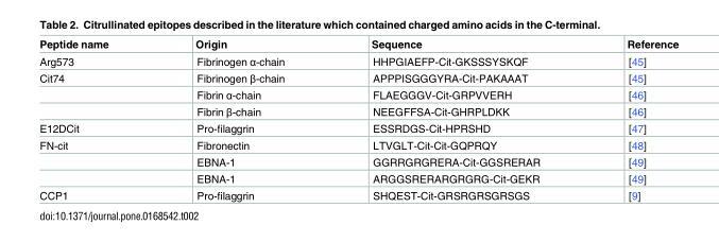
<table><thead><tr><td>Peptide name</td><td>Origin</td><td>Sequence</td><td>Reference</td></tr></thead><tbody><tr><td>Arg573</td><td>Fibrinogen α-chain</td><td>HHPGIAEFP-Cit-GKSSSYSKQF</td><td>[45]</td></tr><tr><td rowspan="3">Cit74</td><td>Fibrinogen β-chain</td><td>APPPISGGGYRA-Cit-PAKAAAT</td><td>[45]</td></tr><tr><td>Fibrin α-chain</td><td>FLAEGGGV-Cit-GRPVVERH</td><td>[46]</td></tr><tr><td>Fibrin β-chain</td><td>NEEGFFSA-Cit-GHRPLDKK</td><td>[46]</td></tr><tr><td>E12DCit</td><td>Pro-filaggrin</td><td>ESSRDGS-Cit-HPRSHD</td><td>[47]</td></tr><tr><td rowspan="3">FN-cit</td><td>Fibronectin</td><td>LTVGLT-Cit-Cit-GQPRQY</td><td>[48]</td></tr><tr><td>EBNA-1</td><td>GGRRGRGRERA-Cit-GGSRERAR</td><td>[49]</td></tr><tr><td>EBNA-1</td><td>ARGGSRERARGRGRG-Cit-GEKR</td><td>[49]</td></tr><tr><td>CCP1</td><td>Pro-filaggrin</td><td>SHQEST-Cit-GRSRGRSGRSGS</td><td>[9]</td></tr></tbody></table>